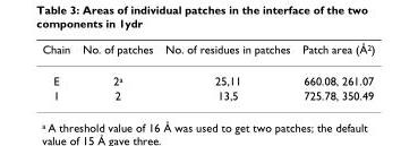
<table><thead><tr><td>Chain</td><td>No. of patches</td><td>No. of residues in patches</td><td>Patch area (Å2)</td></tr></thead><tbody><tr><td>E</td><td>2a</td><td>25,11</td><td>660.08, 261.07</td></tr><tr><td>I</td><td>2</td><td>13,5</td><td>725.78, 350.49</td></tr></tbody></table>